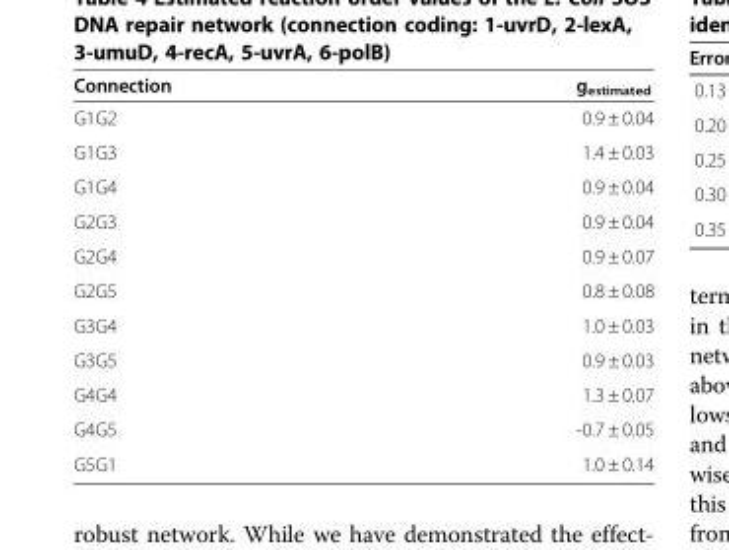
<table><thead><tr><td>Connection</td><td>g<sub>estimated</sub></td></tr></thead><tbody><tr><td>G1G2</td><td>0.9 ± 0.04</td></tr><tr><td>G1G3</td><td>1.4 ± 0.03</td></tr><tr><td>G1G4</td><td>0.9 ± 0.04</td></tr><tr><td>G2G3</td><td>0.9 ± 0.04</td></tr><tr><td>G2G4</td><td>0.9 ± 0.07</td></tr><tr><td>G2G5</td><td>0.8 ± 0.08</td></tr><tr><td>G3G4</td><td>1.0 ± 0.03</td></tr><tr><td>G3G5</td><td>0.9 ± 0.03</td></tr><tr><td>G4G4</td><td>1.3 ± 0.07</td></tr><tr><td>G4G5</td><td>-0.7 ± 0.05</td></tr><tr><td>G5G1</td><td>1.0 ± 0.14</td></tr></tbody></table>